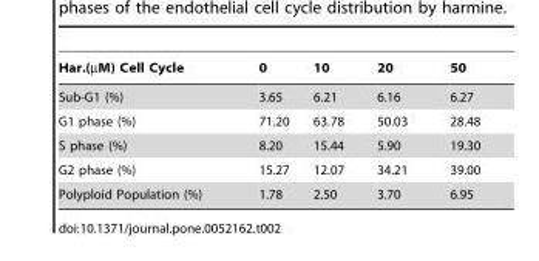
<table><thead><tr><td>Har.(µM) Cell Cycle</td><td>0</td><td>10</td><td>20</td><td>50</td></tr></thead><tbody><tr><td>Sub-G1 (%)</td><td>3.65</td><td>6.21</td><td>6.16</td><td>6.27</td></tr><tr><td>G1 phase (%)</td><td>71.20</td><td>63.78</td><td>50.03</td><td>28.48</td></tr><tr><td>S phase (%)</td><td>8.20</td><td>15.44</td><td>5.90</td><td>19.30</td></tr><tr><td>G2 phase (%)</td><td>15.27</td><td>12.07</td><td>34.21</td><td>39.00</td></tr><tr><td>Polyploid Population (%)</td><td>1.78</td><td>2.50</td><td>3.70</td><td>6.95</td></tr></tbody></table>